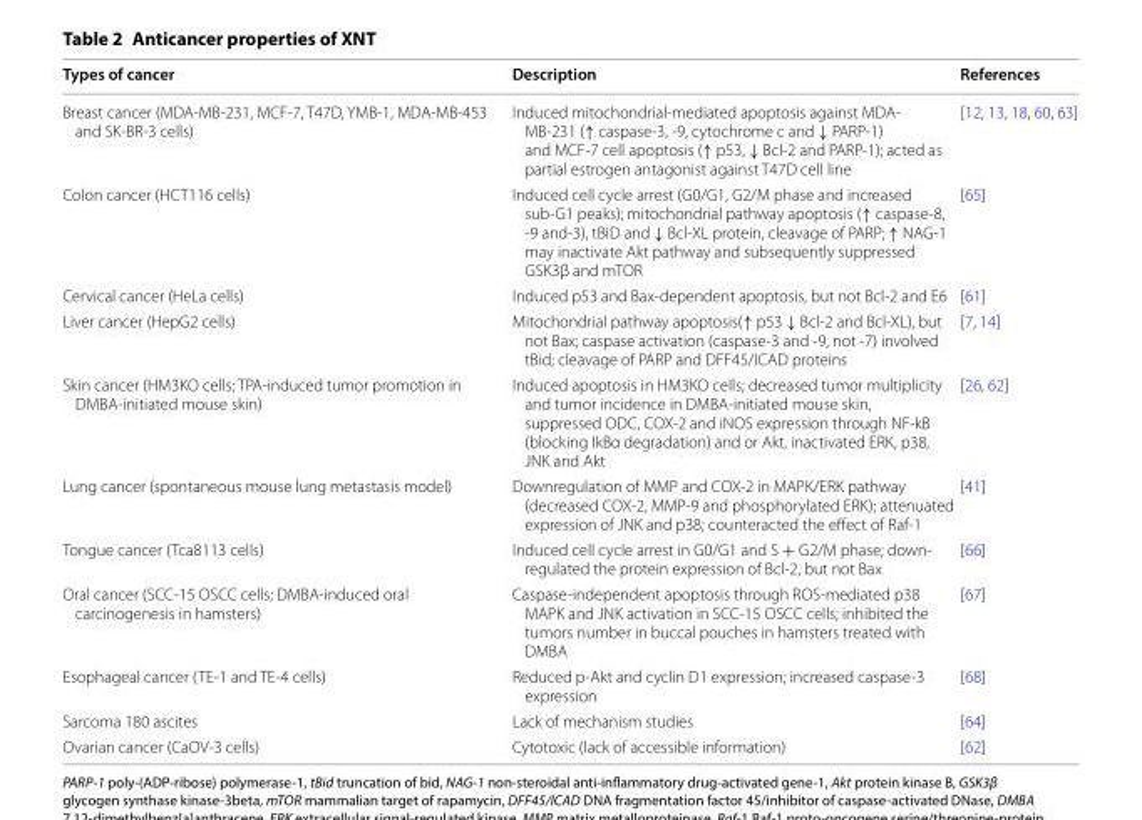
<table><thead><tr><td>Types of cancer</td><td>Description</td><td>References</td></tr></thead><tbody><tr><td>Breast cancer (MDA-MB-231, MCF-7, T47D, YMB-1, MDA-MB-453 and SK-BR-3 cells)</td><td>Induced mitochondrial-mediated apoptosis against MDA- MB-231 (↑ caspase-3, -9, cytochrome c and ↓ PARP-1) and MCF-7 cell apoptosis (↑ p53, ↓ Bcl-2 and PARP-1); acted as partial estrogen antagonist against T47D cell line</td><td>[12, 13, 18, 60, 63]</td></tr><tr><td>Colon cancer (HCT116 cells)</td><td>Induced cell cycle arrest (G0/G1, G2/M phase and increased sub-G1 peaks); mitochondrial pathway apoptosis (↑ caspase-8, -9 and-3), tBID and ↓ Bcl-XL protein, cleavage of PARP; ↑ NAG-1 may inactivate Akt pathway and subsequently suppressed GSK3β and mTOR</td><td>[65]</td></tr><tr><td>Cervical cancer (HeLa cells)</td><td>Induced p53 and Bax-dependent apoptosis, but not Bcl-2 and E6</td><td>[61]</td></tr><tr><td>Liver cancer (HepG2 cells)</td><td>Mitochondrial pathway apoptosis(↑ p53 ↓ Bcl-2 and Bcl-XL), but not Bax; caspase activation (caspase-3 and -9, not -7) involved tBid; cleavage of PARP and DFF45/ICAD proteins</td><td>[7, 14]</td></tr><tr><td>Skin cancer (HM3KO cells; TPA-induced tumor promotion in DMBA-initiated mouse skin)</td><td>Induced apoptosis in HM3KO cells; decreased tumor multiplicity and tumor incidence in DMBA-initiated mouse skin, suppressed ODC, COX-2 and iNOS expression through NF-kB (blocking IkBα degradation) and or Akt, inactivated ERK, p38, JNK and Akt</td><td>[26, 62]</td></tr><tr><td>Lung cancer (spontaneous mouse lung metastasis model)</td><td>Downregulation of MMP and COX-2 in MAPK/ERK pathway (decreased COX-2, MMP-9 and phosphorylated ERK); attenuated expression of JNK and p38; counteracted the effect of Raf-1</td><td>[41]</td></tr><tr><td>Tongue cancer (Tca8113 cells)</td><td>Induced cell cycle arrest in G0/G1 and S + G2/M phase; down- regulated the protein expression of Bcl-2, but not Bax</td><td>[66]</td></tr><tr><td>Oral cancer (SCC-15 OSCC cells; DMBA-induced oral carcinogenesis in hamsters)</td><td>Caspase-independent apoptosis through ROS-mediated p38 MAPK and JNK activation in SCC-15 OSCC cells; inhibited the tumors number in buccal pouches in hamsters treated with DMBA</td><td>[67]</td></tr><tr><td>Esophageal cancer (TE-1 and TE-4 cells)</td><td>Reduced p-Akt and cyclin D1 expression; increased caspase-3 expression</td><td>[68]</td></tr><tr><td>Sarcoma 180 ascites</td><td>Lack of mechanism studies</td><td>[64]</td></tr><tr><td>Ovarian cancer (CaOV-3 cells)</td><td>Cytotoxic (lack of accessible information)</td><td>[62]</td></tr></tbody></table>